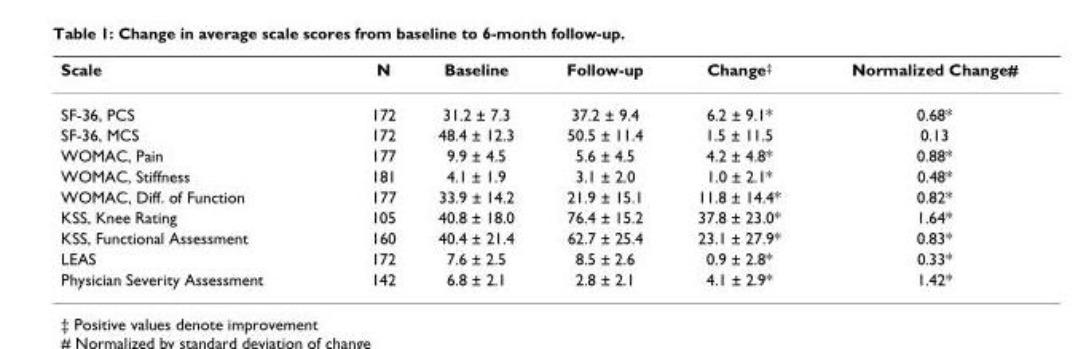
<table><thead><tr><td>Scale</td><td>N</td><td>Baseline</td><td>Follow-up</td><td>Change<sup>‡</sup></td><td>Normalized Change#</td></tr></thead><tbody><tr><td>SF-36, PCS</td><td>172</td><td>31.2 ± 7.3</td><td>37.2 ± 9.4</td><td>6.2 ± 9.1*</td><td>0.68*</td></tr><tr><td>SF-36, MCS</td><td>172</td><td>48.4 ± 12.3</td><td>50.5 ± 11.4</td><td>1.5 ± 11.5</td><td>0.13</td></tr><tr><td>WOMAC, Pain</td><td>177</td><td>9.9 ± 4.5</td><td>5.6 ± 4.5</td><td>4.2 ± 4.8*</td><td>0.88*</td></tr><tr><td>WOMAC, Stiffness</td><td>181</td><td>4.1 ± 1.9</td><td>3.1 ± 2.0</td><td>1.0 ± 2.1*</td><td>0.48*</td></tr><tr><td>WOMAC, Diff. of Function</td><td>177</td><td>33.9 ± 14.2</td><td>21.9 ± 15.1</td><td>11.8 ± 14.4*</td><td>0.82*</td></tr><tr><td>KSS, Knee Rating</td><td>105</td><td>40.8 ± 18.0</td><td>76.4 ± 15.2</td><td>37.8 ± 23.0*</td><td>1.64*</td></tr><tr><td>KSS, Functional Assessment</td><td>160</td><td>40.4 ± 21.4</td><td>62.7 ± 25.4</td><td>23.1 ± 27.9*</td><td>0.83*</td></tr><tr><td>LEAS</td><td>172</td><td>7.6 ± 2.5</td><td>8.5 ± 2.6</td><td>0.9 ± 2.8*</td><td>0.33*</td></tr><tr><td>Physician Severity Assessment</td><td>142</td><td>6.8 ± 2.1</td><td>2.8 ± 2.1</td><td>4.1 ± 2.9*</td><td>1.42*</td></tr></tbody></table>